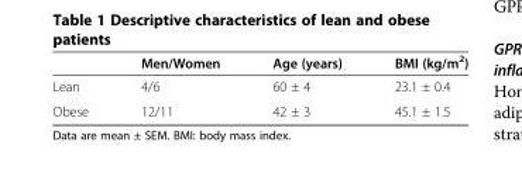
<table><thead><tr><td></td><td>Men/Women</td><td>Age (years)</td><td>BMI (kg/m<sup>2</sup>)</td></tr></thead><tbody><tr><td>Lean</td><td>4/6</td><td>60 ± 4</td><td>23.1 ± 0.4</td></tr><tr><td>Obese</td><td>12/11</td><td>42 ± 3</td><td>45.1 ± 1.5</td></tr></tbody></table>